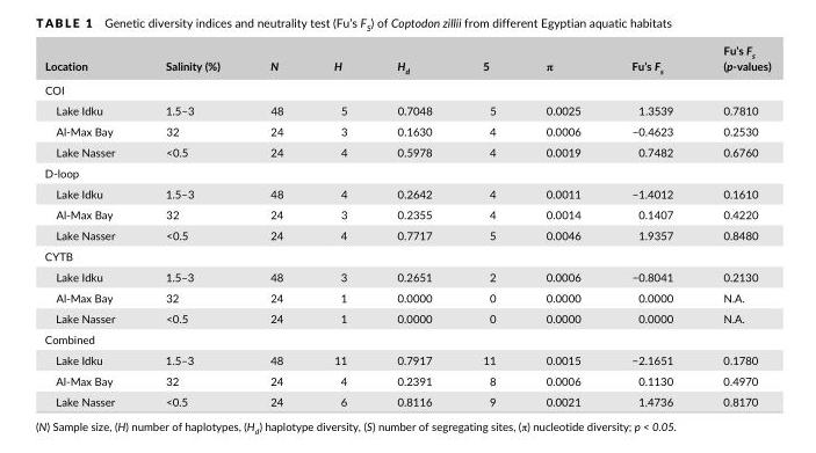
<table><thead><tr><td>Location</td><td>Salinity (%)</td><td>N</td><td>H</td><td>H<sub>d</sub></td><td>5</td><td>π</td><td>Fu’s F<sub>s</sub></td><td>Fu’s F<sub>s</sub> (p- values)</td></tr></thead><tbody><tr><td colspan="9">COI</td></tr><tr><td>Lake Idku</td><td>1.5–3</td><td>48</td><td>5</td><td>0.7048</td><td>5</td><td>0.0025</td><td>1.3539</td><td>0.7810</td></tr><tr><td>Al- Max Bay</td><td>32</td><td>24</td><td>3</td><td>0.1630</td><td>4</td><td>0.0006</td><td>−0.4623</td><td>0.2530</td></tr><tr><td>Lake Nasser</td><td>&lt;0.5</td><td>24</td><td>4</td><td>0.5978</td><td>4</td><td>0.0019</td><td>0.7482</td><td>0.6760</td></tr><tr><td colspan="9">D- loop</td></tr><tr><td>Lake Idku</td><td>1.5–3</td><td>48</td><td>4</td><td>0.2642</td><td>4</td><td>0.0011</td><td>−1.4012</td><td>0.1610</td></tr><tr><td>Al- Max Bay</td><td>32</td><td>24</td><td>3</td><td>0.2355</td><td>4</td><td>0.0014</td><td>0.1407</td><td>0.4220</td></tr><tr><td>Lake Nasser</td><td>&lt;0.5</td><td>24</td><td>4</td><td>0.7717</td><td>5</td><td>0.0046</td><td>1.9357</td><td>0.8480</td></tr><tr><td colspan="9">CYTB</td></tr><tr><td>Lake Idku</td><td>1.5–3</td><td>48</td><td>3</td><td>0.2651</td><td>2</td><td>0.0006</td><td>−0.8041</td><td>0.2130</td></tr><tr><td>Al- Max Bay</td><td>32</td><td>24</td><td>1</td><td>0.0000</td><td>0</td><td>0.0000</td><td>0.0000</td><td>N.A.</td></tr><tr><td>Lake Nasser</td><td>&lt;0.5</td><td>24</td><td>1</td><td>0.0000</td><td>0</td><td>0.0000</td><td>0.0000</td><td>N.A.</td></tr><tr><td colspan="9">Combined</td></tr><tr><td>Lake Idku</td><td>1.5–3</td><td>48</td><td>11</td><td>0.7917</td><td>11</td><td>0.0015</td><td>−2.1651</td><td>0.1780</td></tr><tr><td>Al- Max Bay</td><td>32</td><td>24</td><td>4</td><td>0.2391</td><td>8</td><td>0.0006</td><td>0.1130</td><td>0.4970</td></tr><tr><td>Lake Nasser</td><td>&lt;0.5</td><td>24</td><td>6</td><td>0.8116</td><td>9</td><td>0.0021</td><td>1.4736</td><td>0.8170</td></tr></tbody></table>